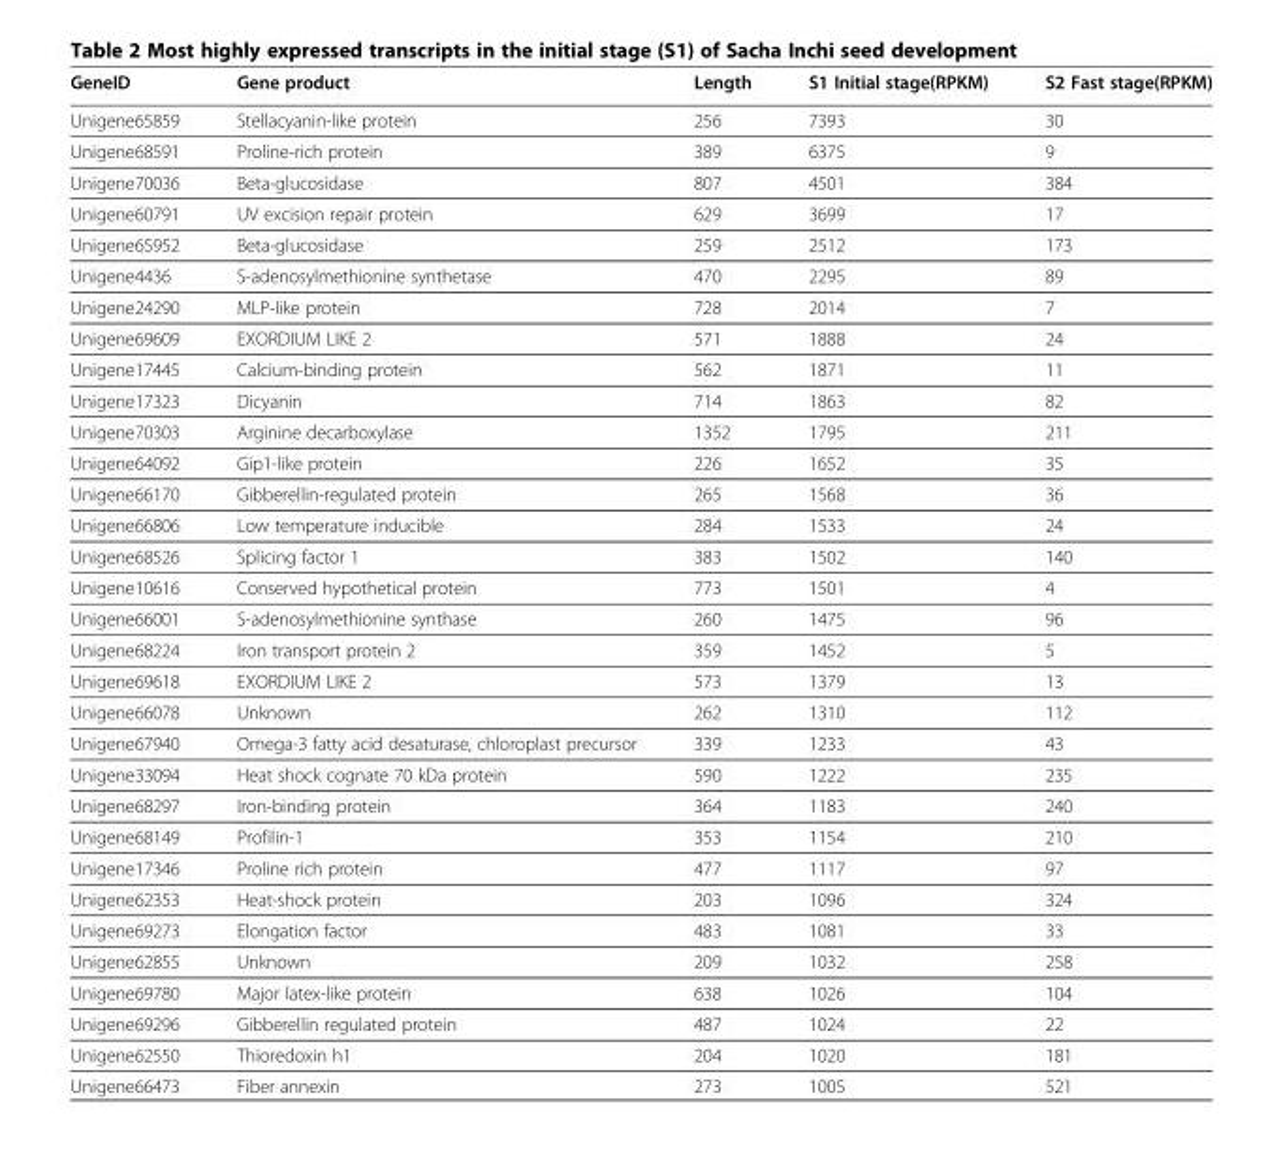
<table><thead><tr><td>GeneID</td><td>Gene product</td><td>Length</td><td>S1 Initial stage(RPKM)</td><td>S2 Fast stage(RPKM)</td></tr></thead><tbody><tr><td>Unigene65859</td><td>Stellacyanin-like protein</td><td>256</td><td>7393</td><td>30</td></tr><tr><td>Unigene68591</td><td>Proline-rich protein</td><td>389</td><td>6375</td><td>9</td></tr><tr><td>Unigene70036</td><td>Beta-glucosidase</td><td>807</td><td>4501</td><td>384</td></tr><tr><td>Unigene60791</td><td>UV excision repair protein</td><td>629</td><td>3699</td><td>17</td></tr><tr><td>Unigene65952</td><td>Beta-glucosidase</td><td>259</td><td>2512</td><td>173</td></tr><tr><td>Unigene4436</td><td>S-adenosylmethionine synthetase</td><td>470</td><td>2295</td><td>89</td></tr><tr><td>Unigene24290</td><td>MLP-like protein</td><td>728</td><td>2014</td><td>7</td></tr><tr><td>Unigene69609</td><td>EXORDIUM LIKE 2</td><td>571</td><td>1888</td><td>24</td></tr><tr><td>Unigene17445</td><td>Calcium-binding protein</td><td>562</td><td>1871</td><td>11</td></tr><tr><td>Unigene17323</td><td>Dicyanin</td><td>714</td><td>1863</td><td>82</td></tr><tr><td>Unigene70303</td><td>Arginine decarboxylase</td><td>1352</td><td>1795</td><td>211</td></tr><tr><td>Unigene64092</td><td>Gip1-like protein</td><td>226</td><td>1652</td><td>35</td></tr><tr><td>Unigene66170</td><td>Gibberellin-regulated protein</td><td>265</td><td>1568</td><td>36</td></tr><tr><td>Unigene66806</td><td>Low temperature inducible</td><td>284</td><td>1533</td><td>24</td></tr><tr><td>Unigene68526</td><td>Splicing factor 1</td><td>383</td><td>1502</td><td>140</td></tr><tr><td>Unigene10616</td><td>Conserved hypothetical protein</td><td>773</td><td>1501</td><td>4</td></tr><tr><td>Unigene66001</td><td>S-adenosylmethionine synthase</td><td>260</td><td>1475</td><td>96</td></tr><tr><td>Unigene68224</td><td>Iron transport protein 2</td><td>359</td><td>1452</td><td>5</td></tr><tr><td>Unigene69618</td><td>EXORDIUM LIKE 2</td><td>573</td><td>1379</td><td>13</td></tr><tr><td>Unigene66078</td><td>Unknown</td><td>262</td><td>1310</td><td>112</td></tr><tr><td>Unigene67940</td><td>Omega-3 fatty acid desaturase, chloroplast precursor</td><td>339</td><td>1233</td><td>43</td></tr><tr><td>Unigene33094</td><td>Heat shock cognate 70 kDa protein</td><td>590</td><td>1222</td><td>235</td></tr><tr><td>Unigene68297</td><td>Iron-binding protein</td><td>364</td><td>1183</td><td>240</td></tr><tr><td>Unigene68149</td><td>Profilin-1</td><td>353</td><td>1154</td><td>210</td></tr><tr><td>Unigene17346</td><td>Proline rich protein</td><td>477</td><td>1117</td><td>97</td></tr><tr><td>Unigene62353</td><td>Heat-shock protein</td><td>203</td><td>1096</td><td>324</td></tr><tr><td>Unigene69273</td><td>Elongation factor</td><td>483</td><td>1081</td><td>33</td></tr><tr><td>Unigene62855</td><td>Unknown</td><td>209</td><td>1032</td><td>258</td></tr><tr><td>Unigene69780</td><td>Major latex-like protein</td><td>638</td><td>1026</td><td>104</td></tr><tr><td>Unigene69296</td><td>Gibberellin regulated protein</td><td>487</td><td>1024</td><td>22</td></tr><tr><td>Unigene62550</td><td>Thioredoxin h1</td><td>204</td><td>1020</td><td>181</td></tr><tr><td>Unigene66473</td><td>Fiber annexin</td><td>273</td><td>1005</td><td>521</td></tr></tbody></table>